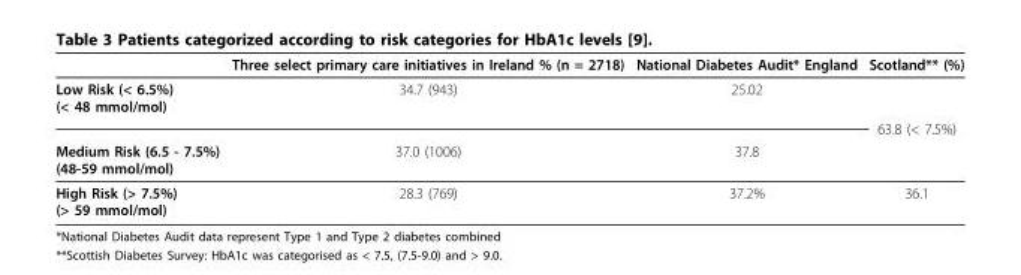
<table><thead><tr><td></td><td>Three select primary care initiatives in Ireland % (n = 2718)</td><td>National Diabetes Audit* England</td><td>Scotland** (%)</td></tr></thead><tbody><tr><td>Low Risk (&lt; 6.5%) (&lt; 48 mmol/mol)</td><td>34.7 (943)</td><td>25.02</td><td></td></tr><tr><td colspan="3"></td><td>63.8 (&lt; 7.5%)</td></tr><tr><td>Medium Risk (6.5 - 7.5%) (48-59 mmol/mol)</td><td>37.0 (1006)</td><td>37.8</td><td></td></tr><tr><td>High Risk (&gt; 7.5%) (&gt; 59 mmol/mol)</td><td>28.3 (769)</td><td>37.2%</td><td>36.1</td></tr></tbody></table>